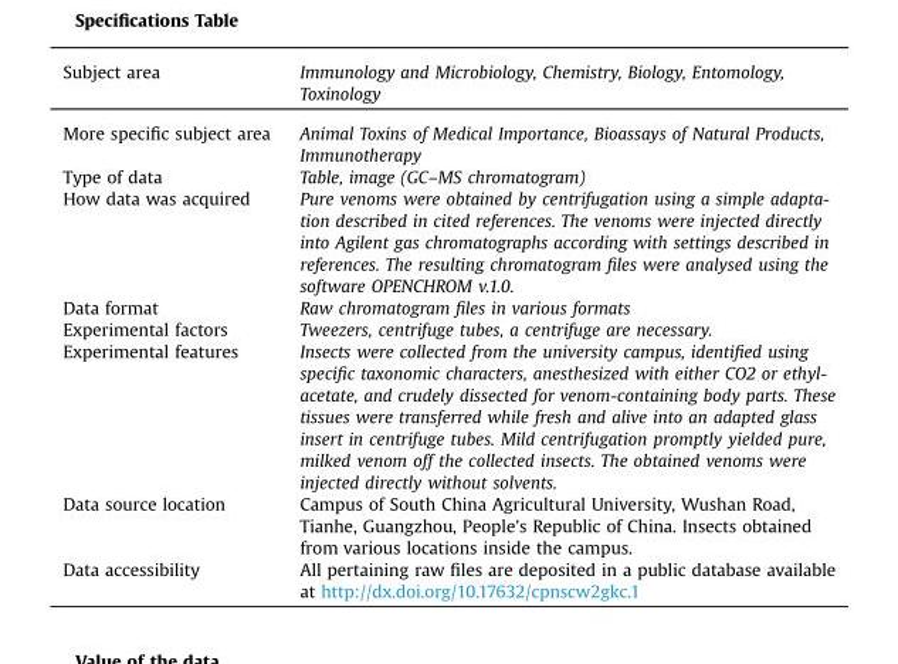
<table><thead><tr><td>Subject area</td><td>Immunology and Microbiology, Chemistry, Biology, Entomology, Toxinology</td></tr></thead><tbody><tr><td>More specific subject area</td><td>Animal Toxins of Medical Importance, Bioassays of Natural Products, Immunotherapy</td></tr><tr><td>Type of data</td><td>Table, image (GC–MS chromatogram)</td></tr><tr><td>How data was acquired</td><td>Pure venoms were obtained by centrifugation using a simple adapta- tion described in cited references. The venoms were injected directly into Agilent gas chromatographs according with settings described in references. The resulting chromatogram files were analysed using the software OPENCHROM v.1.0.</td></tr><tr><td>Data format</td><td>Raw chromatogram files in various formats</td></tr><tr><td>Experimental factors</td><td>Tweezers, centrifuge tubes, a centrifuge are necessary.</td></tr><tr><td>Experimental features</td><td>Insects were collected from the university campus, identified using specific taxonomic characters, anesthesized with either CO2 or ethyl- acetate, and crudely dissected for venom-containing body parts. These tissues were transferred while fresh and alive into an adapted glass insert in centrifuge tubes. Mild centrifugation promptly yielded pure, milked venom off the collected insects. The obtained venoms were injected directly without solvents.</td></tr><tr><td>Data source location</td><td>Campus of South China Agricultural University, Wushan Road, Tianhe, Guangzhou, People&#x27;s Republic of China. Insects obtained from various locations inside the campus.</td></tr><tr><td>Data accessibility</td><td>All pertaining raw files are deposited in a public database available at http://dx.doi.org/10.17632/cpnscw2gkc.1</td></tr></tbody></table>